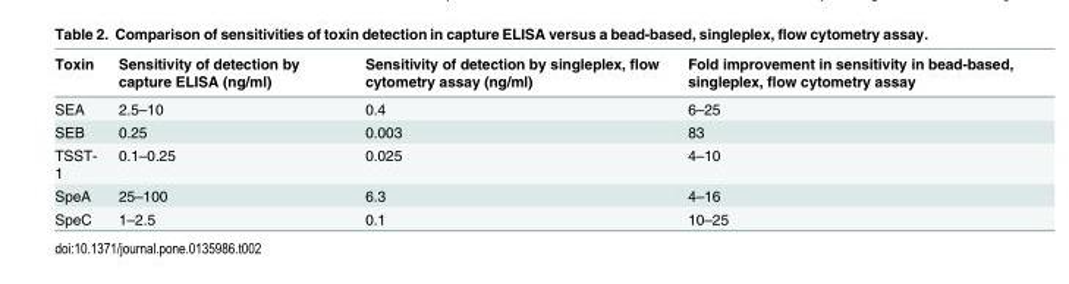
<table><thead><tr><td>Toxin</td><td>Sensitivity of detection by capture ELISA (ng/ml)</td><td>Sensitivity of detection by singleplex, flow cytometry assay (ng/ml)</td><td>Fold improvement in sensitivity in bead-based, singleplex, flow cytometry assay</td></tr></thead><tbody><tr><td>SEA</td><td>2.5–10</td><td>0.4</td><td>6–25</td></tr><tr><td>SEB</td><td>0.25</td><td>0.003</td><td>83</td></tr><tr><td>TSST- 1</td><td>0.1–0.25</td><td>0.025</td><td>4–10</td></tr><tr><td>SpeA</td><td>25–100</td><td>6.3</td><td>4–16</td></tr><tr><td>SpeC</td><td>1–2.5</td><td>0.1</td><td>10–25</td></tr></tbody></table>